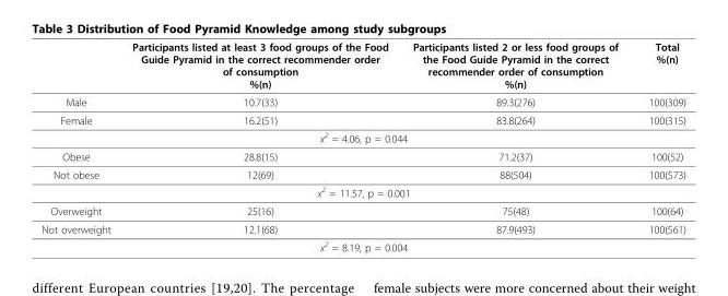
<table><thead><tr><td></td><td>Participants listed at least 3 food groups of the Food Guide Pyramid in the correct recommender order of consumption %(n)</td><td>Participants listed 2 or less food groups of the Food Guide Pyramid in the correct recommender order of consumption %(n)</td><td>Total %(n)</td></tr></thead><tbody><tr><td>Male</td><td>10.7(33)</td><td>89.3(276)</td><td>100(309)</td></tr><tr><td>Female</td><td>16.2(51)</td><td>83.8(264)</td><td>100(315)</td></tr><tr><td colspan="4">x<sup>2</sup> = 4.06, p = 0.044</td></tr><tr><td>Obese</td><td>28.8(15)</td><td>71.2(37)</td><td>100(52)</td></tr><tr><td>Not obese</td><td>12(69)</td><td>88(504)</td><td>100(573)</td></tr><tr><td colspan="4">x<sup>2</sup> = 11.57, p = 0.001</td></tr><tr><td>Overweight</td><td>25(16)</td><td>75(48)</td><td>100(64)</td></tr><tr><td>Not overweight</td><td>12.1(68)</td><td>87.9(493)</td><td>100(561)</td></tr><tr><td colspan="4">x<sup>2</sup> = 8.19, p = 0.004</td></tr></tbody></table>